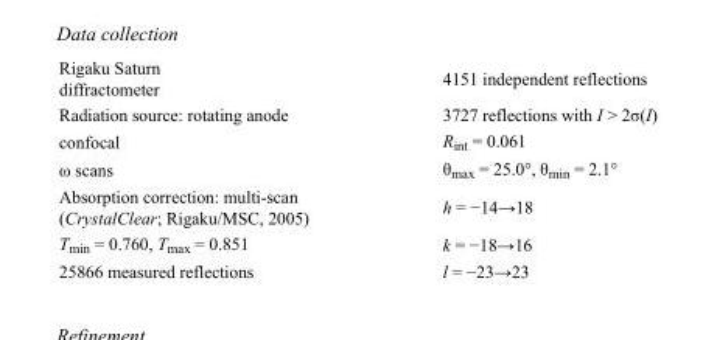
<table><tbody><tr><td>Rigaku Saturn diffractometer</td><td>4151 independent reflections</td></tr><tr><td>Radiation source: rotating anode</td><td>3727 reflections with I &gt; 2σ(I)</td></tr><tr><td>confocal</td><td>R<sub>int</sub> = 0.061</td></tr><tr><td>ω scans</td><td>θ<sub>max</sub> = 25.0°, θ<sub>min</sub> = 2.1°</td></tr><tr><td>Absorption correction: multi-scan (CrystalClear; Rigaku/MSC, 2005)</td><td>h = −14→18</td></tr><tr><td>T<sub>min</sub> = 0.760, T<sub>max</sub> = 0.851</td><td>k = −18→16</td></tr><tr><td>25866 measured reflections</td><td>l = −23→23</td></tr></tbody></table>